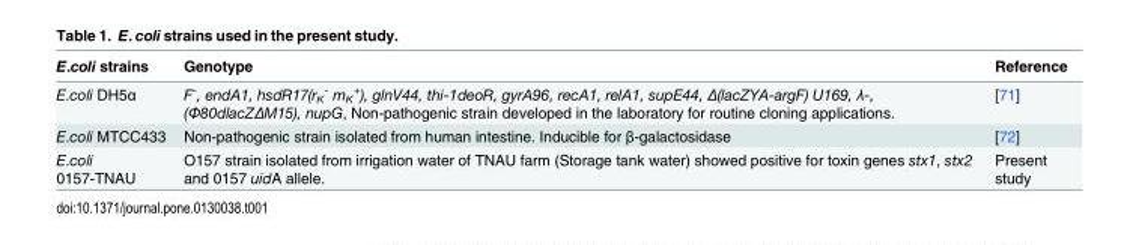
<table><thead><tr><td>E.coli strains</td><td>Genotype</td><td>Reference</td></tr></thead><tbody><tr><td>E.coli DH5α</td><td>F<sup>-</sup>, endA1, hsdR17(r<sub>K</sub> <sup>-</sup> m<sub>K</sub> <sup>+</sup>), glnV44, thi-1deoR, gyrA96, recA1, relA1, supE44, Δ(lacZYA-argF) U169, λ-, (Φ80dlacZΔM15), nupG, Non-pathogenic strain developed in the laboratory for routine cloning applications.</td><td>[71]</td></tr><tr><td>E.coli MTCC433</td><td>Non-pathogenic strain isolated from human intestine. Inducible for β-galactosidase</td><td>[72]</td></tr><tr><td>E.coli 0157-TNAU</td><td>O157 strain isolated from irrigation water of TNAU farm (Storage tank water) showed positive for toxin genes stx1, stx2 and 0157 uidA allele.</td><td>Present study</td></tr></tbody></table>